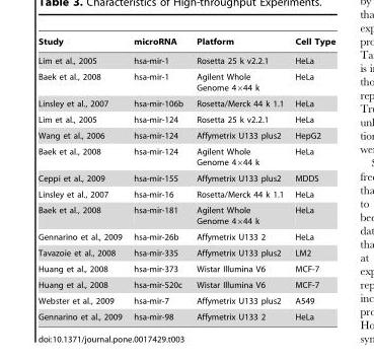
<table><thead><tr><td>Study</td><td>microRNA</td><td>Platform</td><td>Cell Type</td></tr></thead><tbody><tr><td>Lim et al., 2005</td><td>hsa-mir-1</td><td>Rosetta 25 k v2.2.1</td><td>HeLa</td></tr><tr><td>Baek et al., 2008</td><td>hsa-mir-1</td><td>Agilent Whole Genome 4×44 k</td><td>HeLa</td></tr><tr><td>Linsley et al., 2007</td><td>hsa-mir-106b</td><td>Rosetta/Merck 44 k 1.1</td><td>HeLa</td></tr><tr><td>Lim et al., 2005</td><td>hsa-mir-124</td><td>Rosetta 25 k v2.2.1</td><td>HeLa</td></tr><tr><td>Wang et al., 2006</td><td>hsa-mir-124</td><td>Affymetrix U133 plus2</td><td>HepG2</td></tr><tr><td>Baek et al., 2008</td><td>hsa-mir-124</td><td>Agilent Whole Genome 4×44 k</td><td>HeLa</td></tr><tr><td>Ceppi et al., 2009</td><td>hsa-mir-155</td><td>Affymetrix U133 plus2</td><td>MDDS</td></tr><tr><td>Linsley et al., 2007</td><td>hsa-mir-16</td><td>Rosetta/Merck 44 k 1.1</td><td>HeLa</td></tr><tr><td>Baek et al., 2008</td><td>hsa-mir-181</td><td>Agilent Whole Genome 4×44 k</td><td>HeLa</td></tr><tr><td>Gennarino et al., 2009</td><td>hsa-mir-26b</td><td>Affymetrix U133 2</td><td>HeLa</td></tr><tr><td>Tavazoie et al., 2008</td><td>hsa-mir-335</td><td>Affymetrix U133 plus2</td><td>LM2</td></tr><tr><td>Huang et al., 2008</td><td>hsa-mir-373</td><td>Wistar Illumina V6</td><td>MCF-7</td></tr><tr><td>Huang et al., 2008</td><td>hsa-mir-520c</td><td>Wistar Illumina V6</td><td>MCF-7</td></tr><tr><td>Webster et al., 2009</td><td>hsa-mir-7</td><td>Affymetrix U133 plus2</td><td>A549</td></tr><tr><td>Gennarino et al., 2009</td><td>hsa-mir-98</td><td>Affymetrix U133 2</td><td>HeLa</td></tr></tbody></table>